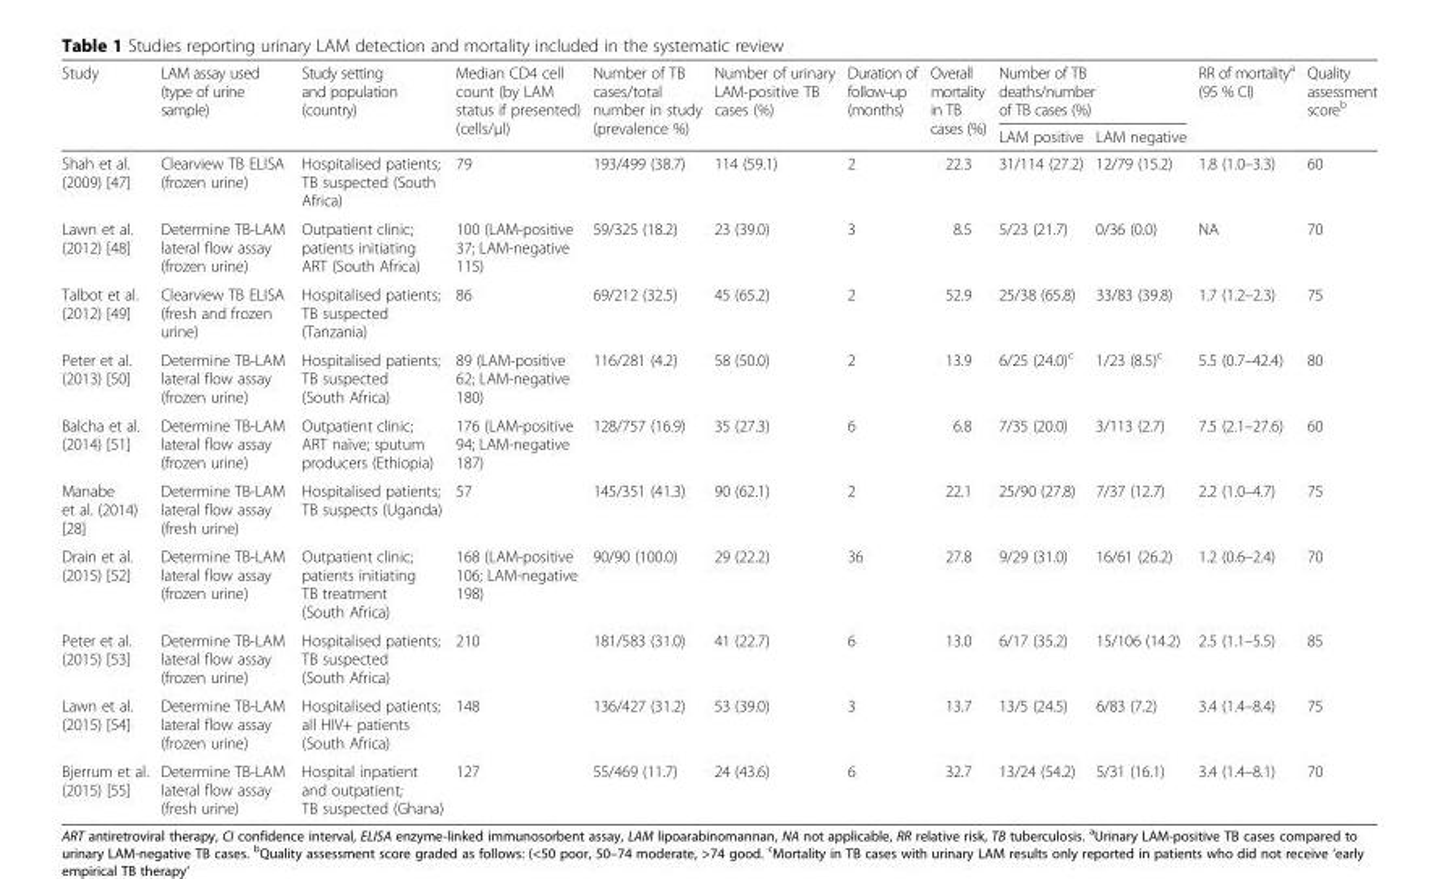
<table><thead><tr><td rowspan="2">Study</td><td rowspan="2">LAM assay used (type of urine sample)</td><td rowspan="2">Study setting and population (country)</td><td rowspan="2">Median CD4 cell count (by LAM status if presented) (cells/μl)</td><td rowspan="2">Number of TB cases/total number in study (prevalence %)</td><td rowspan="2">Number of urinary LAM-positive TB cases (%)</td><td rowspan="2">Duration of follow-up (months)</td><td rowspan="2">Overall mortality in TB cases (%)</td><td colspan="2">Number of TB deaths/number of TB cases (%)</td><td rowspan="2">RR of mortality<sup>a</sup> (95 % CI)</td><td rowspan="2">Quality assessment score<sup>b</sup></td></tr><tr><td>LAM positive</td><td>LAM negative</td></tr></thead><tbody><tr><td>Shah et al. (2009) [47]</td><td>Clearview TB ELISA (frozen urine)</td><td>Hospitalised patients; TB suspected (South Africa)</td><td>79</td><td>193/499 (38.7)</td><td>114 (59.1)</td><td>2</td><td>22.3</td><td>31/114 (27.2)</td><td>12/79 (15.2)</td><td>1.8 (1.0–3.3)</td><td>60</td></tr><tr><td>Lawn et al. (2012) [48]</td><td>Determine TB-LAM lateral flow assay (frozen urine)</td><td>Outpatient clinic; patients initiating ART (South Africa)</td><td>100 (LAM-positive 37; LAM-negative 115)</td><td>59/325 (18.2)</td><td>23 (39.0)</td><td>3</td><td>8.5</td><td>5/23 (21.7)</td><td>0/36 (0.0)</td><td>NA</td><td>70</td></tr><tr><td>Talbot et al. (2012) [49]</td><td>Clearview TB ELISA (fresh and frozen urine)</td><td>Hospitalised patients; TB suspected (Tanzania)</td><td>86</td><td>69/212 (32.5)</td><td>45 (65.2)</td><td>2</td><td>52.9</td><td>25/38 (65.8)</td><td>33/83 (39.8)</td><td>1.7 (1.2–2.3)</td><td>75</td></tr><tr><td>Peter et al. (2013) [50]</td><td>Determine TB-LAM lateral flow assay (frozen urine)</td><td>Hospitalised patients; TB suspected (South Africa)</td><td>89 (LAM-positive 62; LAM-negative 180)</td><td>116/281 (4.2)</td><td>58 (50.0)</td><td>2</td><td>13.9</td><td>6/25 (24.0)<sup>c</sup></td><td>1/23 (8.5)<sup>c</sup></td><td>5.5 (0.7–42.4)</td><td>80</td></tr><tr><td>Balcha et al. (2014) [51]</td><td>Determine TB-LAM lateral flow assay (frozen urine)</td><td>Outpatient clinic; ART naïve; sputum producers (Ethiopia)</td><td>176 (LAM-positive 94; LAM-negative 187)</td><td>128/757 (16.9)</td><td>35 (27.3)</td><td>6</td><td>6.8</td><td>7/35 (20.0)</td><td>3/113 (2.7)</td><td>7.5 (2.1–27.6)</td><td>60</td></tr><tr><td>Manabe et al. (2014) [28]</td><td>Determine TB-LAM lateral flow assay (fresh urine)</td><td>Hospitalised patients; TB suspects (Uganda)</td><td>57</td><td>145/351 (41.3)</td><td>90 (62.1)</td><td>2</td><td>22.1</td><td>25/90 (27.8)</td><td>7/37 (12.7)</td><td>2.2 (1.0–4.7)</td><td>75</td></tr><tr><td>Drain et al. (2015) [52]</td><td>Determine TB-LAM lateral flow assay (frozen urine)</td><td>Outpatient clinic; patients initiating TB treatment (South Africa)</td><td>168 (LAM-positive 106; LAM-negative 198)</td><td>90/90 (100.0)</td><td>29 (22.2)</td><td>36</td><td>27.8</td><td>9/29 (31.0)</td><td>16/61 (26.2)</td><td>1.2 (0.6–2.4)</td><td>70</td></tr><tr><td>Peter et al. (2015) [53]</td><td>Determine TB-LAM lateral flow assay (frozen urine)</td><td>Hospitalised patients; TB suspected (South Africa)</td><td>210</td><td>181/583 (31.0)</td><td>41 (22.7)</td><td>6</td><td>13.0</td><td>6/17 (35.2)</td><td>15/106 (14.2)</td><td>2.5 (1.1–5.5)</td><td>85</td></tr><tr><td>Lawn et al. (2015) [54]</td><td>Determine TB-LAM lateral flow assay (frozen urine)</td><td>Hospitalised patients; all HIV+ patients (South Africa)</td><td>148</td><td>136/427 (31.2)</td><td>53 (39.0)</td><td>3</td><td>13.7</td><td>13/5 (24.5)</td><td>6/83 (7.2)</td><td>3.4 (1.4–8.4)</td><td>75</td></tr><tr><td>Bjerrum et al. (2015) [55]</td><td>Determine TB-LAM lateral flow assay (fresh urine)</td><td>Hospital inpatient and outpatient; TB suspected (Ghana)</td><td>127</td><td>55/469 (11.7)</td><td>24 (43.6)</td><td>6</td><td>32.7</td><td>13/24 (54.2)</td><td>5/31 (16.1)</td><td>3.4 (1.4–8.1)</td><td>70</td></tr></tbody></table>